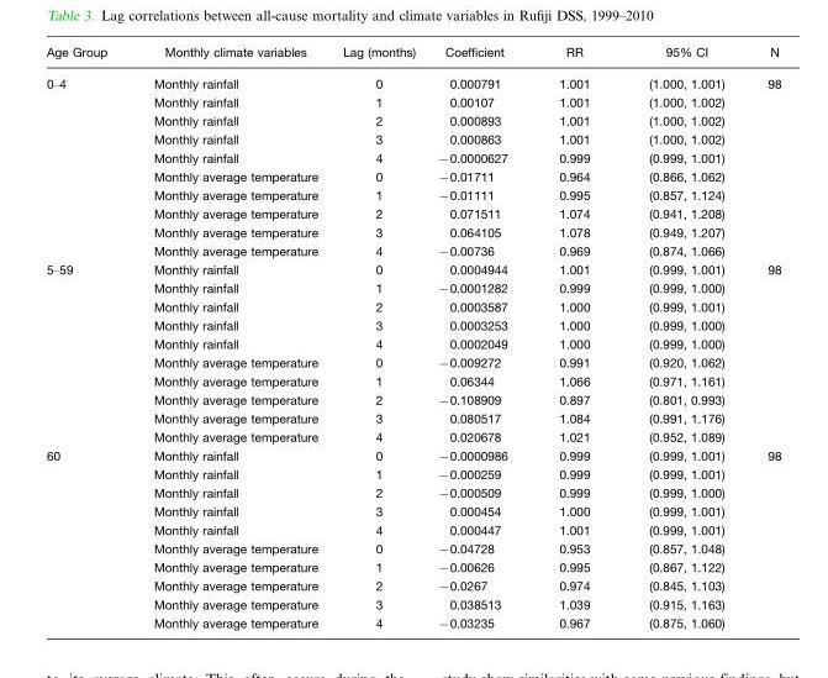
<table><thead><tr><td>Age Group</td><td>Monthly climate variables</td><td>Lag (months)</td><td>Coefficient</td><td>RR</td><td>95% CI</td><td>N</td></tr></thead><tbody><tr><td rowspan="10">0–4</td><td>Monthly rainfall</td><td>0</td><td>0.000791</td><td>1.001</td><td>(1.000, 1.001)</td><td>98</td></tr><tr><td>Monthly rainfall</td><td>1</td><td>0.00107</td><td>1.001</td><td>(1.000, 1.002)</td><td></td></tr><tr><td>Monthly rainfall</td><td>2</td><td>0.000893</td><td>1.001</td><td>(1.000, 1.002)</td><td></td></tr><tr><td>Monthly rainfall</td><td>3</td><td>0.000863</td><td>1.001</td><td>(1.000, 1.002)</td><td></td></tr><tr><td>Monthly rainfall</td><td>4</td><td>−0.0000627</td><td>0.999</td><td>(0.999, 1.001)</td><td></td></tr><tr><td>Monthly average temperature</td><td>0</td><td>−0.01711</td><td>0.964</td><td>(0.866, 1.062)</td><td></td></tr><tr><td>Monthly average temperature</td><td>1</td><td>−0.01111</td><td>0.995</td><td>(0.857, 1.124)</td><td></td></tr><tr><td>Monthly average temperature</td><td>2</td><td>0.071511</td><td>1.074</td><td>(0.941, 1.208)</td><td></td></tr><tr><td>Monthly average temperature</td><td>3</td><td>0.064105</td><td>1.078</td><td>(0.949, 1.207)</td><td></td></tr><tr><td>Monthly average temperature</td><td>4</td><td>−0.00736</td><td>0.969</td><td>(0.874, 1.066)</td><td></td></tr><tr><td rowspan="10">5–59</td><td>Monthly rainfall</td><td>0</td><td>0.0004944</td><td>1.001</td><td>(0.999, 1.001)</td><td>98</td></tr><tr><td>Monthly rainfall</td><td>1</td><td>−0.0001282</td><td>0.999</td><td>(0.999, 1.000)</td><td></td></tr><tr><td>Monthly rainfall</td><td>2</td><td>0.0003587</td><td>1.000</td><td>(0.999, 1.001)</td><td></td></tr><tr><td>Monthly rainfall</td><td>3</td><td>0.0003253</td><td>1.000</td><td>(0.999, 1.000)</td><td></td></tr><tr><td>Monthly rainfall</td><td>4</td><td>0.0002049</td><td>1.000</td><td>(0.999, 1.000)</td><td></td></tr><tr><td>Monthly average temperature</td><td>0</td><td>−0.009272</td><td>0.991</td><td>(0.920, 1.062)</td><td></td></tr><tr><td>Monthly average temperature</td><td>1</td><td>0.06344</td><td>1.066</td><td>(0.971, 1.161)</td><td></td></tr><tr><td>Monthly average temperature</td><td>2</td><td>−0.108909</td><td>0.897</td><td>(0.801, 0.993)</td><td></td></tr><tr><td>Monthly average temperature</td><td>3</td><td>0.080517</td><td>1.084</td><td>(0.991, 1.176)</td><td></td></tr><tr><td>Monthly average temperature</td><td>4</td><td>0.020678</td><td>1.021</td><td>(0.952, 1.089)</td><td></td></tr><tr><td rowspan="10">60</td><td>Monthly rainfall</td><td>0</td><td>−0.0000986</td><td>0.999</td><td>(0.999, 1.001)</td><td>98</td></tr><tr><td>Monthly rainfall</td><td>1</td><td>−0.000259</td><td>0.999</td><td>(0.999, 1.001)</td><td></td></tr><tr><td>Monthly rainfall</td><td>2</td><td>−0.000509</td><td>0.999</td><td>(0.999, 1.000)</td><td></td></tr><tr><td>Monthly rainfall</td><td>3</td><td>0.000454</td><td>1.000</td><td>(0.999, 1.001)</td><td></td></tr><tr><td>Monthly rainfall</td><td>4</td><td>0.000447</td><td>1.001</td><td>(0.999, 1.001)</td><td></td></tr><tr><td>Monthly average temperature</td><td>0</td><td>−0.04728</td><td>0.953</td><td>(0.857, 1.048)</td><td></td></tr><tr><td>Monthly average temperature</td><td>1</td><td>−0.00626</td><td>0.995</td><td>(0.867, 1.122)</td><td></td></tr><tr><td>Monthly average temperature</td><td>2</td><td>−0.0267</td><td>0.974</td><td>(0.845, 1.103)</td><td></td></tr><tr><td>Monthly average temperature</td><td>3</td><td>0.038513</td><td>1.039</td><td>(0.915, 1.163)</td><td></td></tr><tr><td>Monthly average temperature</td><td>4</td><td>−0.03235</td><td>0.967</td><td>(0.875, 1.060)</td><td></td></tr></tbody></table>